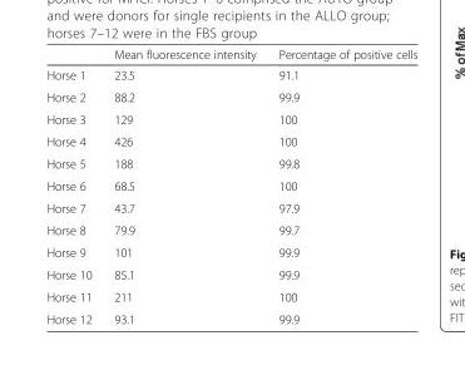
<table><thead><tr><td></td><td>Mean fluorescence intensity</td><td>Percentage of positive cells</td></tr></thead><tbody><tr><td>Horse 1</td><td>23.5</td><td>91.1</td></tr><tr><td>Horse 2</td><td>88.2</td><td>99.9</td></tr><tr><td>Horse 3</td><td>129</td><td>100</td></tr><tr><td>Horse 4</td><td>426</td><td>100</td></tr><tr><td>Horse 5</td><td>188</td><td>99.8</td></tr><tr><td>Horse 6</td><td>68.5</td><td>100</td></tr><tr><td>Horse 7</td><td>43.7</td><td>97.9</td></tr><tr><td>Horse 8</td><td>79.9</td><td>99.7</td></tr><tr><td>Horse 9</td><td>101</td><td>99.9</td></tr><tr><td>Horse 10</td><td>85.1</td><td>99.9</td></tr><tr><td>Horse 11</td><td>211</td><td>100</td></tr><tr><td>Horse 12</td><td>93.1</td><td>99.9</td></tr></tbody></table>